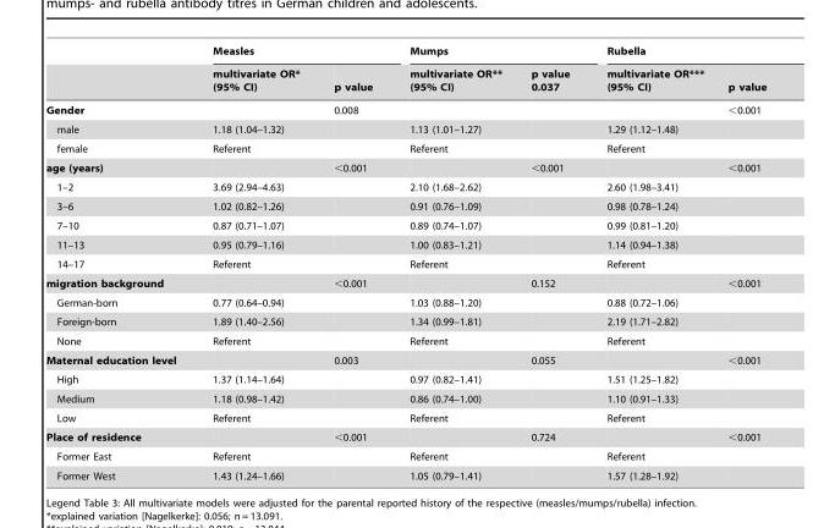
<table><thead><tr><td rowspan="2"></td><td colspan="2">Measles</td><td colspan="2">Mumps</td><td colspan="2">Rubella</td></tr><tr><td>multivariate OR* (95% CI)</td><td>p value</td><td>multivariate OR** (95% CI)</td><td>p value 0.037</td><td>multivariate OR*** (95% CI)</td><td>p value</td></tr></thead><tbody><tr><td>Gender</td><td></td><td>0.008</td><td></td><td></td><td></td><td>&lt;0.001</td></tr><tr><td>male</td><td>1.18 (1.04–1.32)</td><td></td><td>1.13 (1.01–1.27)</td><td></td><td>1.29 (1.12–1.48)</td><td></td></tr><tr><td>female</td><td>Referent</td><td></td><td>Referent</td><td></td><td>Referent</td><td></td></tr><tr><td>age (years)</td><td></td><td>&lt;0.001</td><td></td><td>&lt;0.001</td><td></td><td>&lt;0.001</td></tr><tr><td>1–2</td><td>3.69 (2.94–4.63)</td><td></td><td>2.10 (1.68–2.62)</td><td></td><td>2.60 (1.98–3.41)</td><td></td></tr><tr><td>3–6</td><td>1.02 (0.82–1.26)</td><td></td><td>0.91 (0.76–1.09)</td><td></td><td>0.98 (0.78–1.24)</td><td></td></tr><tr><td>7–10</td><td>0.87 (0.71–1.07)</td><td></td><td>0.89 (0.74–1.07)</td><td></td><td>0.99 (0.81–1.20)</td><td></td></tr><tr><td>11–13</td><td>0.95 (0.79–1.16)</td><td></td><td>1.00 (0.83–1.21)</td><td></td><td>1.14 (0.94–1.38)</td><td></td></tr><tr><td>14–17</td><td>Referent</td><td></td><td>Referent</td><td></td><td>Referent</td><td></td></tr><tr><td>migration background</td><td></td><td>&lt;0.001</td><td></td><td>0.152</td><td></td><td>&lt;0.001</td></tr><tr><td>German-born</td><td>0.77 (0.64–0.94)</td><td></td><td>1.03 (0.88–1.20)</td><td></td><td>0.88 (0.72–1.06)</td><td></td></tr><tr><td>Foreign-born</td><td>1.89 (1.40–2.56)</td><td></td><td>1.34 (0.99–1.81)</td><td></td><td>2.19 (1.71–2.82)</td><td></td></tr><tr><td>None</td><td>Referent</td><td></td><td>Referent</td><td></td><td>Referent</td><td></td></tr><tr><td>Maternal education level</td><td></td><td>0.003</td><td></td><td>0.055</td><td></td><td>&lt;0.001</td></tr><tr><td>High</td><td>1.37 (1.14–1.64)</td><td></td><td>0.97 (0.82–1.41)</td><td></td><td>1.51 (1.25–1.82)</td><td></td></tr><tr><td>Medium</td><td>1.18 (0.98–1.42)</td><td></td><td>0.86 (0.74–1.00)</td><td></td><td>1.10 (0.91–1.33)</td><td></td></tr><tr><td>Low</td><td>Referent</td><td></td><td>Referent</td><td></td><td>Referent</td><td></td></tr><tr><td>Place of residence</td><td></td><td>&lt;0.001</td><td></td><td>0.724</td><td></td><td>&lt;0.001</td></tr><tr><td>Former East</td><td>Referent</td><td></td><td>Referent</td><td></td><td>Referent</td><td></td></tr><tr><td>Former West</td><td>1.43 (1.24–1.66)</td><td></td><td>1.05 (0.79–1.41)</td><td></td><td>1.57 (1.28–1.92)</td><td></td></tr></tbody></table>